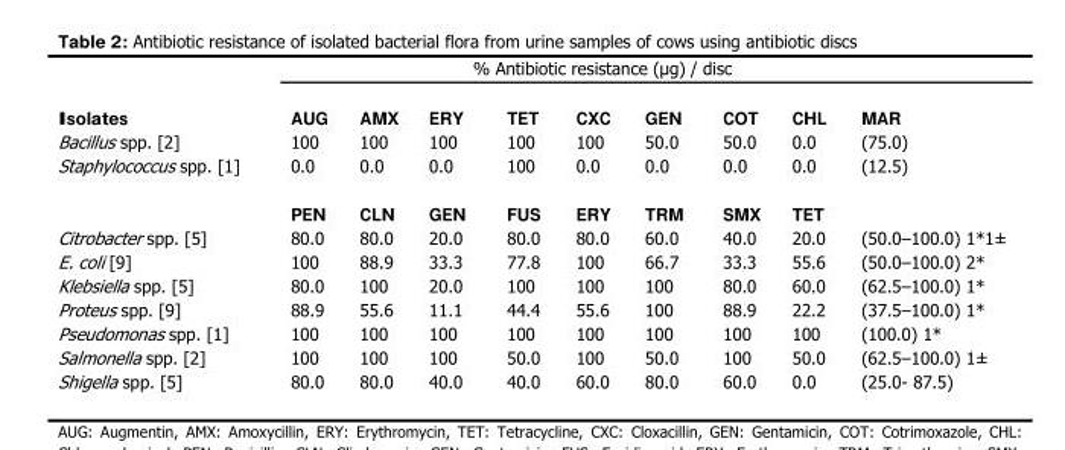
<table><thead><tr><td rowspan="2">Isolates</td><td colspan="9">% Antibiotic resistance (μg) / disc</td></tr><tr><td>AUG</td><td>AMX</td><td>ERY</td><td>TET</td><td>CXC</td><td>GEN</td><td>COT</td><td>CHL</td><td>MAR</td></tr></thead><tbody><tr><td>Bacillus spp. [2]</td><td>100</td><td>100</td><td>100</td><td>100</td><td>100</td><td>50.0</td><td>50.0</td><td>0.0</td><td>(75.0)</td></tr><tr><td rowspan="2">Staphylococcus spp. [1]</td><td>0.0</td><td>0.0</td><td>0.0</td><td>100</td><td>0.0</td><td>0.0</td><td>0.0</td><td>0.0</td><td>(12.5)</td></tr><tr><td>PEN</td><td>CLN</td><td>GEN</td><td>FUS</td><td>ERY</td><td>TRM</td><td>SMX</td><td>TET</td><td></td></tr><tr><td>Citrobacter spp. [5]</td><td>80.0</td><td>80.0</td><td>20.0</td><td>80.0</td><td>80.0</td><td>60.0</td><td>40.0</td><td>20.0</td><td>(50.0–100.0) 1*1±</td></tr><tr><td>E. coli [9]</td><td>100</td><td>88.9</td><td>33.3</td><td>77.8</td><td>100</td><td>66.7</td><td>33.3</td><td>55.6</td><td>(50.0–100.0) 2*</td></tr><tr><td>Klebsiella spp. [5]</td><td>80.0</td><td>100</td><td>20.0</td><td>100</td><td>100</td><td>100</td><td>80.0</td><td>60.0</td><td>(62.5–100.0) 1*</td></tr><tr><td>Proteus spp. [9]</td><td>88.9</td><td>55.6</td><td>11.1</td><td>44.4</td><td>55.6</td><td>100</td><td>88.9</td><td>22.2</td><td>(37.5–100.0) 1*</td></tr><tr><td>Pseudomonas spp. [1]</td><td>100</td><td>100</td><td>100</td><td>100</td><td>100</td><td>100</td><td>100</td><td>100</td><td>(100.0) 1*</td></tr><tr><td>Salmonella spp. [2]</td><td>100</td><td>100</td><td>100</td><td>50.0</td><td>100</td><td>50.0</td><td>100</td><td>50.0</td><td>(62.5–100.0) 1±</td></tr><tr><td>Shigella spp. [5]</td><td>80.0</td><td>80.0</td><td>40.0</td><td>40.0</td><td>60.0</td><td>80.0</td><td>60.0</td><td>0.0</td><td>(25.0- 87.5)</td></tr></tbody></table>